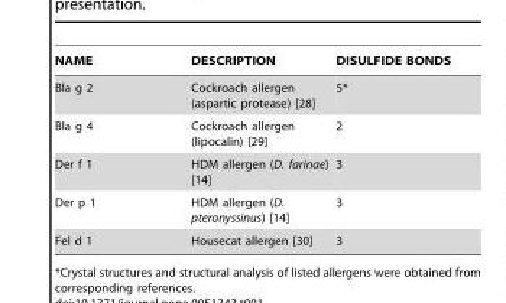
<table><thead><tr><td>NAME</td><td>DESCRIPTION</td><td>DISULFIDE BONDS</td></tr></thead><tbody><tr><td>Bla g 2</td><td>Cockroach allergen (aspartic protease) [28]</td><td>5*</td></tr><tr><td>Bla g 4</td><td>Cockroach allergen (lipocalin) [29]</td><td>2</td></tr><tr><td>Der f 1</td><td>HDM allergen (D. farinae) [14]</td><td>3</td></tr><tr><td>Der p 1</td><td>HDM allergen (D. pteronyssinus) [14]</td><td>3</td></tr><tr><td>Fel d 1</td><td>Housecat allergen [30]</td><td>3</td></tr></tbody></table>